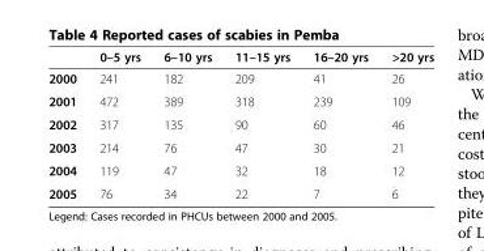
<table><thead><tr><td></td><td>0–5 yrs</td><td>6–10 yrs</td><td>11–15 yrs</td><td>16–20 yrs</td><td>&gt;20 yrs</td></tr></thead><tbody><tr><td>2000</td><td>241</td><td>182</td><td>209</td><td>41</td><td>26</td></tr><tr><td>2001</td><td>472</td><td>389</td><td>318</td><td>239</td><td>109</td></tr><tr><td>2002</td><td>317</td><td>135</td><td>90</td><td>60</td><td>46</td></tr><tr><td>2003</td><td>214</td><td>76</td><td>47</td><td>30</td><td>21</td></tr><tr><td>2004</td><td>119</td><td>47</td><td>32</td><td>18</td><td>12</td></tr><tr><td>2005</td><td>76</td><td>34</td><td>22</td><td>7</td><td>6</td></tr></tbody></table>